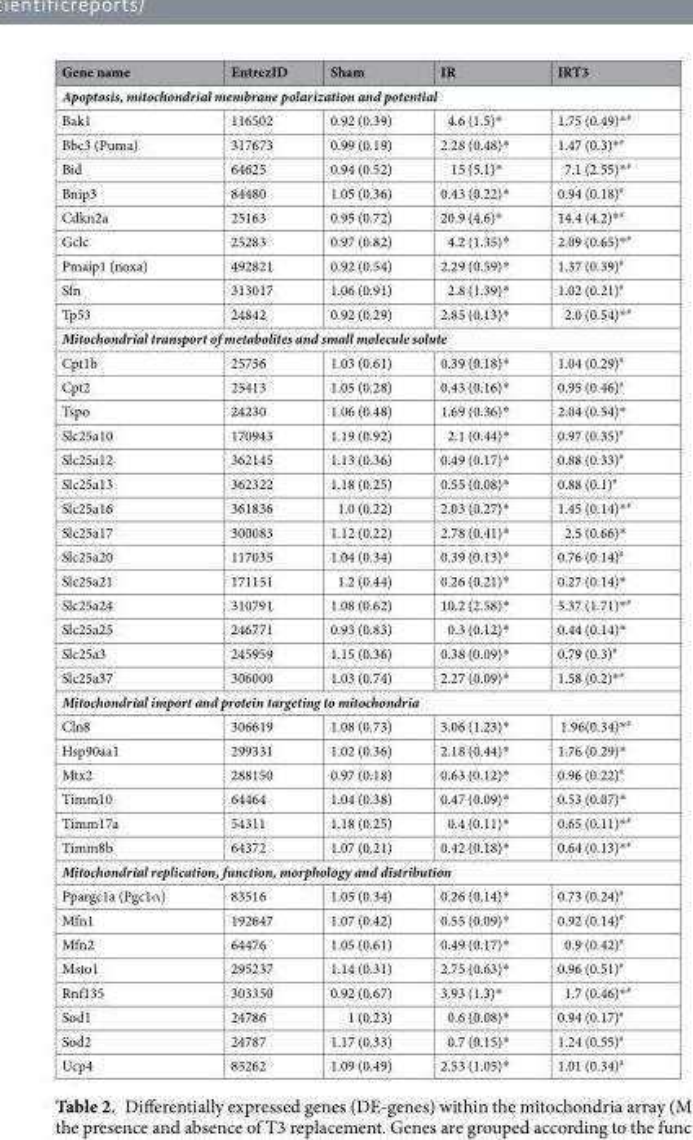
<table><thead><tr><td>Gene name</td><td>EntrezID</td><td>Sham</td><td>IR</td><td>IRT3</td></tr></thead><tbody><tr><td colspan="5">Apoptosis, mitochondrial membrane polarization and potential</td></tr><tr><td>Bak1</td><td>116502</td><td>0.92 (0.39)</td><td>4.6 (1.5)*</td><td>1.75 (0.49)*<sup>#</sup></td></tr><tr><td>Bbc3 (Puma)</td><td>317673</td><td>0.99 (0.19)</td><td>2.28 (0.48)*</td><td>1.47 (0.3)*<sup>#</sup></td></tr><tr><td>Bid</td><td>64625</td><td>0.94 (0.52)</td><td>15 (5.1)*</td><td>7.1 (2.55)*<sup>#</sup></td></tr><tr><td>Bnip3</td><td>84480</td><td>1.05 (0.36)</td><td>0.43 (0.22)*</td><td>0.94 (0.18)<sup>#</sup></td></tr><tr><td>Cdkn2a</td><td>25163</td><td>0.95 (0.72)</td><td>20.9 (4.6)*</td><td>14.4 (4.2)*<sup>#</sup></td></tr><tr><td>Gclc</td><td>25283</td><td>0.97 (0.82)</td><td>4.2 (1.35)*</td><td>2.09 (0.65)*<sup>#</sup></td></tr><tr><td>Pmaip1 (noxa)</td><td>492821</td><td>0.92 (0.54)</td><td>2.29 (0.59)*</td><td>1.37 (0.39)<sup>#</sup></td></tr><tr><td>Sfn</td><td>313017</td><td>1.06 (0.91)</td><td>2.8 (1.39)*</td><td>1.02 (0.21)<sup>#</sup></td></tr><tr><td>Tp53</td><td>24842</td><td>0.92 (0.29)</td><td>2.85 (0.13)*</td><td>2.0 (0.54)*<sup>#</sup></td></tr><tr><td colspan="5">Mitochondrial transport of metabolites and small molecule solute</td></tr><tr><td>Cpt1b</td><td>25756</td><td>1.03 (0.61)</td><td>0.39 (0.18)*</td><td>1.04 (0.29)<sup>#</sup></td></tr><tr><td>Cpt2</td><td>25413</td><td>1.05 (0.28)</td><td>0.43 (0.16)*</td><td>0.95 (0.46)<sup>#</sup></td></tr><tr><td>Tspo</td><td>24230</td><td>1.06 (0.48)</td><td>1.69 (0.36)*</td><td>2.04 (0.54)*</td></tr><tr><td>Slc25a10</td><td>170943</td><td>1.19 (0.92)</td><td>2.1 (0.44)*</td><td>0.97 (0.35)<sup>#</sup></td></tr><tr><td>Slc25a12</td><td>362145</td><td>1.13 (0.36)</td><td>0.49 (0.17)*</td><td>0.88 (0.33)<sup>#</sup></td></tr><tr><td>Slc25a13</td><td>362322</td><td>1.18 (0.25)</td><td>0.55 (0.08)*</td><td>0.88 (0.1)<sup>#</sup></td></tr><tr><td>Slc25a16</td><td>361836</td><td>1.0 (0.22)</td><td>2.03 (0.27)*</td><td>1.45 (0.14)*<sup>#</sup></td></tr><tr><td>Slc25a17</td><td>300083</td><td>1.12 (0.22)</td><td>2.78 (0.41)*</td><td>2.5 (0.66)*</td></tr><tr><td>Slc25a20</td><td>117035</td><td>1.04 (0.34)</td><td>0.39 (0.13)*</td><td>0.76 (0.14)<sup>#</sup></td></tr><tr><td>Slc25a21</td><td>171151</td><td>1.2 (0.44)</td><td>0.26 (0.21)*</td><td>0.27 (0.14)*</td></tr><tr><td>Slc25a24</td><td>310791</td><td>1.08 (0.62)</td><td>10.2 (2.58)*</td><td>5.37 (1.71)*<sup>#</sup></td></tr><tr><td>Slc25a25</td><td>246771</td><td>0.93 (0.83)</td><td>0.3 (0.12)*</td><td>0.44 (0.14)*</td></tr><tr><td>Slc25a3</td><td>245959</td><td>1.15 (0.36)</td><td>0.38 (0.09)*</td><td>0.79 (0.3)<sup>#</sup></td></tr><tr><td>Slc25a37</td><td>306000</td><td>1.03 (0.74)</td><td>2.27 (0.09)*</td><td>1.58 (0.2)*<sup>#</sup></td></tr><tr><td colspan="5">Mitochondrial import and protein targeting to mitochondria</td></tr><tr><td>Cln8</td><td>306619</td><td>1.08 (0.73)</td><td>3.06 (1.23)*</td><td>1.96(0.34)*<sup>#</sup></td></tr><tr><td>Hsp90aa1</td><td>299331</td><td>1.02 (0.36)</td><td>2.18 (0.44)*</td><td>1.76 (0.29)*</td></tr><tr><td>Mtx2</td><td>288150</td><td>0.97 (0.18)</td><td>0.63 (0.12)*</td><td>0.96 (0.22)<sup>#</sup></td></tr><tr><td>Timm10</td><td>64464</td><td>1.04 (0.38)</td><td>0.47 (0.09)*</td><td>0.53 (0.07)*</td></tr><tr><td>Timm17a</td><td>54311</td><td>1.18 (0.25)</td><td>0.4 (0.11)*</td><td>0.65 (0.11)*<sup>#</sup></td></tr><tr><td>Timm8b</td><td>64372</td><td>1.07 (0.21)</td><td>0.42 (0.18)*</td><td>0.64 (0.13)*<sup>#</sup></td></tr><tr><td colspan="5">Mitochondrial replication, function, morphology and distribution</td></tr><tr><td>Ppargc1a (Pgc1α)</td><td>83516</td><td>1.05 (0.34)</td><td>0.26 (0.14)*</td><td>0.73 (0.24)<sup>#</sup></td></tr><tr><td>Mfn1</td><td>192647</td><td>1.07 (0.42)</td><td>0.55 (0.09)*</td><td>0.92 (0.14)<sup>#</sup></td></tr><tr><td>Mfn2</td><td>64476</td><td>1.05 (0.61)</td><td>0.49 (0.17)*</td><td>0.9 (0.42)<sup>#</sup></td></tr><tr><td>Msto1</td><td>295237</td><td>1.14 (0.31)</td><td>2.75 (0.63)*</td><td>0.96 (0.51)<sup>#</sup></td></tr><tr><td>Rnf135</td><td>303350</td><td>0.92 (0.67)</td><td>3.93 (1.3)*</td><td>1.7 (0.46)*<sup>#</sup></td></tr><tr><td>Sod1</td><td>24786</td><td>1 (0.23)</td><td>0.6 (0.08)*</td><td>0.94 (0.17)<sup>#</sup></td></tr><tr><td>Sod2</td><td>24787</td><td>1.17 (0.33)</td><td>0.7 (0.15)*</td><td>1.24 (0.55)<sup>#</sup></td></tr><tr><td>Ucp4</td><td>85262</td><td>1.09 (0.49)</td><td>2.53 (1.05)*</td><td>1.01 (0.34)<sup>#</sup></td></tr></tbody></table>